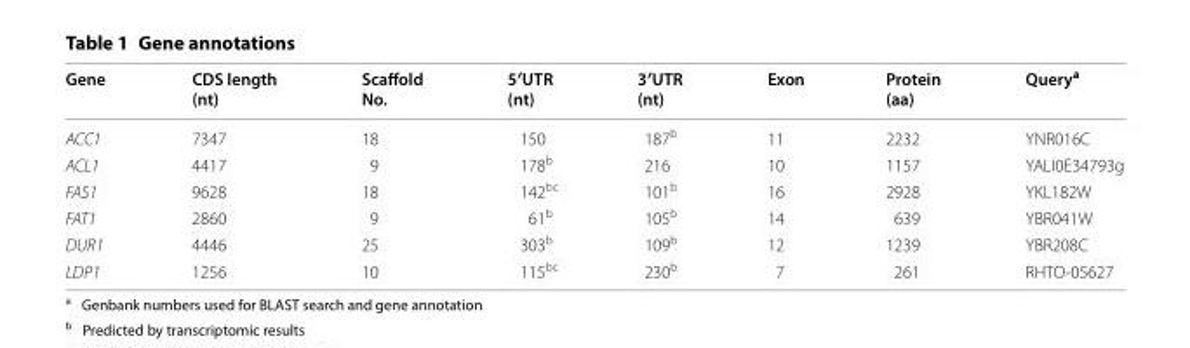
<table><thead><tr><td>Gene</td><td>CDS length (nt)</td><td>Scaffold No.</td><td>5′UTR (nt)</td><td>3′UTR (nt)</td><td>Exon</td><td>Protein (aa)</td><td>Query<sup>a</sup></td></tr></thead><tbody><tr><td>ACC1</td><td>7347</td><td>18</td><td>150</td><td>187<sup>b</sup></td><td>11</td><td>2232</td><td>YNR016C</td></tr><tr><td>ACL1</td><td>4417</td><td>9</td><td>178<sup>b</sup></td><td>216</td><td>10</td><td>1157</td><td>YALI0E34793g</td></tr><tr><td>FAS1</td><td>9628</td><td>18</td><td>142<sup>bc</sup></td><td>101<sup>b</sup></td><td>16</td><td>2928</td><td>YKL182W</td></tr><tr><td>FAT1</td><td>2860</td><td>9</td><td>61<sup>b</sup></td><td>105<sup>b</sup></td><td>14</td><td>639</td><td>YBR041W</td></tr><tr><td>DUR1</td><td>4446</td><td>25</td><td>303<sup>b</sup></td><td>109<sup>b</sup></td><td>12</td><td>1239</td><td>YBR208C</td></tr><tr><td>LDP1</td><td>1256</td><td>10</td><td>115<sup>bc</sup></td><td>230<sup>b</sup></td><td>7</td><td>261</td><td>RHTO-05627</td></tr></tbody></table>